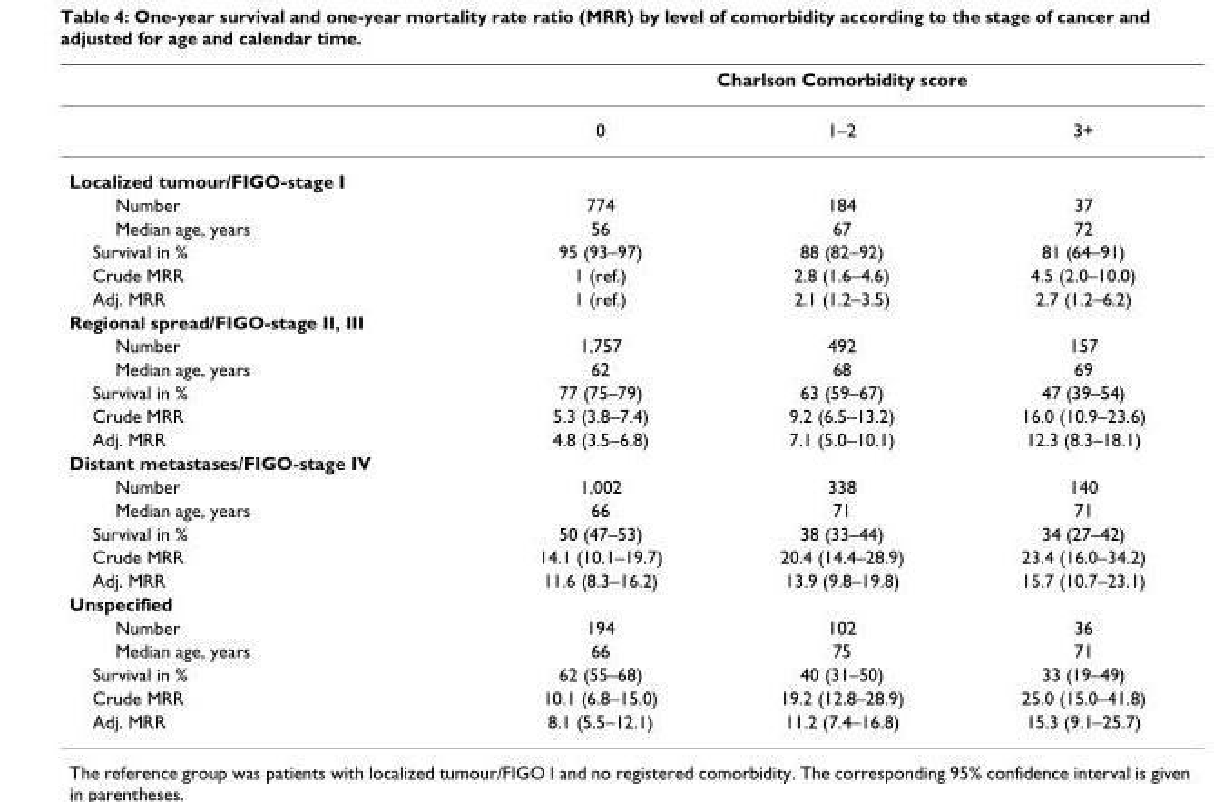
<table><thead><tr><td rowspan="2"></td><td colspan="3">Charlson Comorbidity score</td></tr><tr><td>0</td><td>1–2</td><td>3+</td></tr></thead><tbody><tr><td colspan="4">Localized tumour/FIGO-stage I</td></tr><tr><td>Number</td><td>774</td><td>184</td><td>37</td></tr><tr><td>Median age, years</td><td>56</td><td>67</td><td>72</td></tr><tr><td>Survival in %</td><td>95 (93–97)</td><td>88 (82–92)</td><td>81 (64–91)</td></tr><tr><td>Crude MRR</td><td>1 (ref.)</td><td>2.8 (1.6–4.6)</td><td>4.5 (2.0–10.0)</td></tr><tr><td>Adj. MRR</td><td>1 (ref.)</td><td>2.1 (1.2–3.5)</td><td>2.7 (1.2–6.2)</td></tr><tr><td colspan="4">Regional spread/FIGO-stage II, III</td></tr><tr><td>Number</td><td>1,757</td><td>492</td><td>157</td></tr><tr><td>Median age, years</td><td>62</td><td>68</td><td>69</td></tr><tr><td>Survival in %</td><td>77 (75–79)</td><td>63 (59–67)</td><td>47 (39–54)</td></tr><tr><td>Crude MRR</td><td>5.3 (3.8–7.4)</td><td>9.2 (6.5–13.2)</td><td>16.0 (10.9–23.6)</td></tr><tr><td>Adj. MRR</td><td>4.8 (3.5–6.8)</td><td>7.1 (5.0–10.1)</td><td>12.3 (8.3–18.1)</td></tr><tr><td colspan="4">Distant metastases/FIGO-stage IV</td></tr><tr><td>Number</td><td>1,002</td><td>338</td><td>140</td></tr><tr><td>Median age, years</td><td>66</td><td>71</td><td>71</td></tr><tr><td>Survival in %</td><td>50 (47–53)</td><td>38 (33–44)</td><td>34 (27–42)</td></tr><tr><td>Crude MRR</td><td>14.1 (10.1–19.7)</td><td>20.4 (14.4–28.9)</td><td>23.4 (16.0–34.2)</td></tr><tr><td>Adj. MRR</td><td>11.6 (8.3–16.2)</td><td>13.9 (9.8–19.8)</td><td>15.7 (10.7–23.1)</td></tr><tr><td colspan="4">Unspecified</td></tr><tr><td>Number</td><td>194</td><td>102</td><td>36</td></tr><tr><td>Median age, years</td><td>66</td><td>75</td><td>71</td></tr><tr><td>Survival in %</td><td>62 (55–68)</td><td>40 (31–50)</td><td>33 (19–49)</td></tr><tr><td>Crude MRR</td><td>10.1 (6.8–15.0)</td><td>19.2 (12.8–28.9)</td><td>25.0 (15.0–41.8)</td></tr><tr><td>Adj. MRR</td><td>8.1 (5.5–12.1)</td><td>11.2 (7.4–16.8)</td><td>15.3 (9.1–25.7)</td></tr></tbody></table>